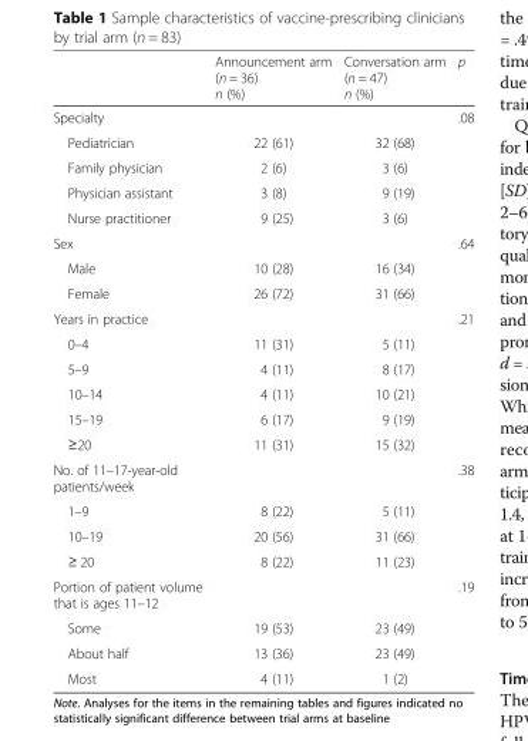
<table><thead><tr><td></td><td>Announcement arm (n = 36) n (%)</td><td>Conversation arm (n = 47) n (%)</td><td>p</td></tr></thead><tbody><tr><td>Specialty</td><td></td><td></td><td>.08</td></tr><tr><td>Pediatrician</td><td>22 (61)</td><td>32 (68)</td><td></td></tr><tr><td>Family physician</td><td>2 (6)</td><td>3 (6)</td><td></td></tr><tr><td>Physician assistant</td><td>3 (8)</td><td>9 (19)</td><td></td></tr><tr><td>Nurse practitioner</td><td>9 (25)</td><td>3 (6)</td><td></td></tr><tr><td>Sex</td><td></td><td></td><td>.64</td></tr><tr><td>Male</td><td>10 (28)</td><td>16 (34)</td><td></td></tr><tr><td>Female</td><td>26 (72)</td><td>31 (66)</td><td></td></tr><tr><td>Years in practice</td><td></td><td></td><td>.21</td></tr><tr><td>0–4</td><td>11 (31)</td><td>5 (11)</td><td></td></tr><tr><td>5–9</td><td>4 (11)</td><td>8 (17)</td><td></td></tr><tr><td>10–14</td><td>4 (11)</td><td>10 (21)</td><td></td></tr><tr><td>15–19</td><td>6 (17)</td><td>9 (19)</td><td></td></tr><tr><td>≥20</td><td>11 (31)</td><td>15 (32)</td><td></td></tr><tr><td>No. of 11–17-year-old patients/week</td><td></td><td></td><td>.38</td></tr><tr><td>1–9</td><td>8 (22)</td><td>5 (11)</td><td></td></tr><tr><td>10–19</td><td>20 (56)</td><td>31 (66)</td><td></td></tr><tr><td>≥ 20</td><td>8 (22)</td><td>11 (23)</td><td></td></tr><tr><td>Portion of patient volume that is ages 11–12</td><td></td><td></td><td>.19</td></tr><tr><td>Some</td><td>19 (53)</td><td>23 (49)</td><td></td></tr><tr><td>About half</td><td>13 (36)</td><td>23 (49)</td><td></td></tr><tr><td>Most</td><td>4 (11)</td><td>1 (2)</td><td></td></tr></tbody></table>